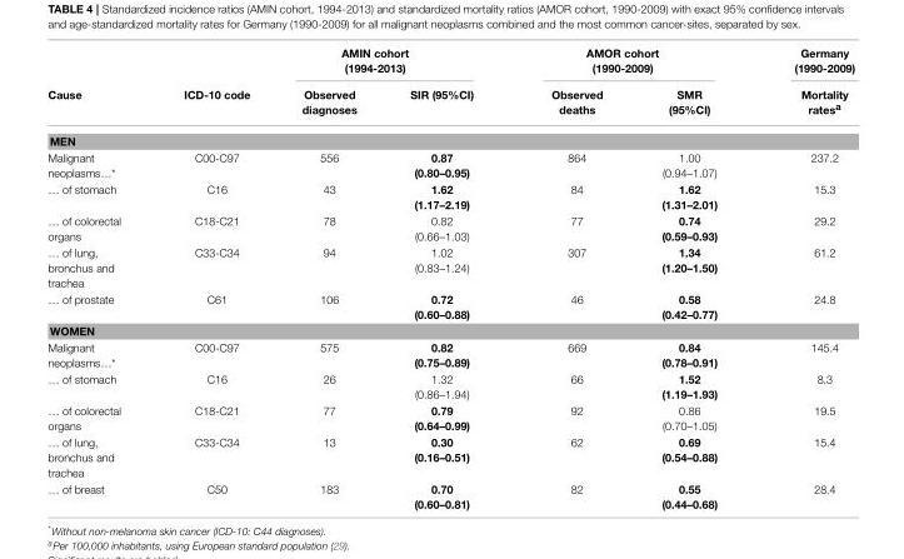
<table><thead><tr><td rowspan="2">Cause</td><td rowspan="2">ICD-10 code</td><td colspan="2">AMIN cohort (1994-2013)</td><td colspan="2">AMOR cohort (1990-2009)</td><td rowspan="2">Germany (1990-2009) Mortality rates<sup>a</sup></td></tr><tr><td>Observed diagnoses</td><td>SIR (95%CI)</td><td>Observed deaths</td><td>SMR (95%CI)</td></tr></thead><tbody><tr><td colspan="7">MEN</td></tr><tr><td>Malignant neoplasms…*</td><td>C00-C97</td><td>556</td><td>0.87 (0.80–0.95)</td><td>864</td><td>1.00 (0.94–1.07)</td><td>237.2</td></tr><tr><td>… of stomach</td><td>C16</td><td>43</td><td>1.62 (1.17–2.19)</td><td>84</td><td>1.62 (1.31–2.01)</td><td>15.3</td></tr><tr><td>… of colorectal organs</td><td>C18-C21</td><td>78</td><td>0.82 (0.66–1.03)</td><td>77</td><td>0.74 (0.59–0.93)</td><td>29.2</td></tr><tr><td>… of lung, bronchus and trachea</td><td>C33-C34</td><td>94</td><td>1.02 (0.83–1.24)</td><td>307</td><td>1.34 (1.20–1.50)</td><td>61.2</td></tr><tr><td>… of prostate</td><td>C61</td><td>106</td><td>0.72 (0.60–0.88)</td><td>46</td><td>0.58 (0.42–0.77)</td><td>24.8</td></tr><tr><td colspan="7">WOMEN</td></tr><tr><td>Malignant neoplasms…*</td><td>C00-C97</td><td>575</td><td>0.82 (0.75–0.89)</td><td>669</td><td>0.84 (0.78–0.91)</td><td>145.4</td></tr><tr><td>… of stomach</td><td>C16</td><td>26</td><td>1.32 (0.86–1.94)</td><td>66</td><td>1.52 (1.19–1.93)</td><td>8.3</td></tr><tr><td>… of colorectal organs</td><td>C18-C21</td><td>77</td><td>0.79 (0.64–0.99)</td><td>92</td><td>0.86 (0.70–1.05)</td><td>19.5</td></tr><tr><td>… of lung, bronchus and trachea</td><td>C33-C34</td><td>13</td><td>0.30 (0.16–0.51)</td><td>62</td><td>0.69 (0.54–0.88)</td><td>15.4</td></tr><tr><td>… of breast</td><td>C50</td><td>183</td><td>0.70 (0.60–0.81)</td><td>82</td><td>0.55 (0.44–0.68)</td><td>28.4</td></tr></tbody></table>